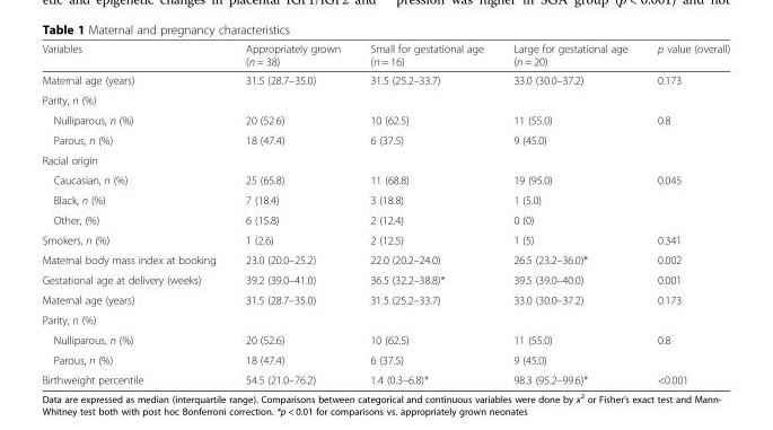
<table><thead><tr><td>Variables</td><td>Appropriately grown (n = 38)</td><td>Small for gestational age (n = 16)</td><td>Large for gestational age (n = 20)</td><td>p value (overall)</td></tr></thead><tbody><tr><td>Maternal age (years)</td><td>31.5 (28.7–35.0)</td><td>31.5 (25.2–33.7)</td><td>33.0 (30.0–37.2)</td><td>0.173</td></tr><tr><td colspan="5">Parity, n (%)</td></tr><tr><td>Nulliparous, n (%)</td><td>20 (52.6)</td><td>10 (62.5)</td><td>11 (55.0)</td><td>0.8</td></tr><tr><td>Parous, n (%)</td><td>18 (47.4)</td><td>6 (37.5)</td><td>9 (45.0)</td><td></td></tr><tr><td colspan="5">Racial origin</td></tr><tr><td>Caucasian, n (%)</td><td>25 (65.8)</td><td>11 (68.8)</td><td>19 (95.0)</td><td>0.045</td></tr><tr><td>Black, n (%)</td><td>7 (18.4)</td><td>3 (18.8)</td><td>1 (5.0)</td><td></td></tr><tr><td>Other, (%)</td><td>6 (15.8)</td><td>2 (12.4)</td><td>0 (0)</td><td></td></tr><tr><td>Smokers, n (%)</td><td>1 (2.6)</td><td>2 (12.5)</td><td>1 (5)</td><td>0.341</td></tr><tr><td>Maternal body mass index at booking</td><td>23.0 (20.0–25.2)</td><td>22.0 (20.2–24.0)</td><td>26.5 (23.2–36.0)*</td><td>0.002</td></tr><tr><td>Gestational age at delivery (weeks)</td><td>39.2 (39.0–41.0)</td><td>36.5 (32.2–38.8)*</td><td>39.5 (39.0–40.0)</td><td>0.001</td></tr><tr><td>Maternal age (years)</td><td>31.5 (28.7–35.0)</td><td>31.5 (25.2–33.7)</td><td>33.0 (30.0–37.2)</td><td>0.173</td></tr><tr><td colspan="5">Parity, n (%)</td></tr><tr><td>Nulliparous, n (%)</td><td>20 (52.6)</td><td>10 (62.5)</td><td>11 (55.0)</td><td>0.8</td></tr><tr><td>Parous, n (%)</td><td>18 (47.4)</td><td>6 (37.5)</td><td>9 (45.0)</td><td></td></tr><tr><td>Birthweight percentile</td><td>54.5 (21.0–76.2)</td><td>1.4 (0.3–6.8)*</td><td>98.3 (95.2–99.6)*</td><td>&lt;0.001</td></tr></tbody></table>